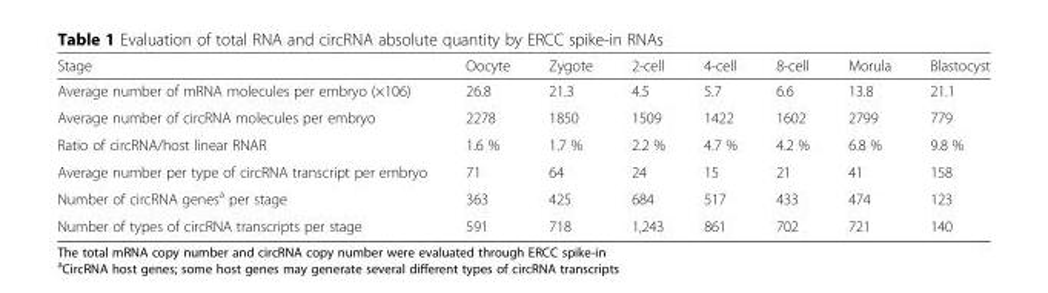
<table><thead><tr><td>Stage</td><td>Oocyte</td><td>Zygote</td><td>2-cell</td><td>4-cell</td><td>8-cell</td><td>Morula</td><td>Blastocyst</td></tr></thead><tbody><tr><td>Average number of mRNA molecules per embryo (×106)</td><td>26.8</td><td>21.3</td><td>4.5</td><td>5.7</td><td>6.6</td><td>13.8</td><td>21.1</td></tr><tr><td>Average number of circRNA molecules per embryo</td><td>2278</td><td>1850</td><td>1509</td><td>1422</td><td>1602</td><td>2799</td><td>779</td></tr><tr><td>Ratio of circRNA/host linear RNAR</td><td>1.6 %</td><td>1.7 %</td><td>2.2 %</td><td>4.7 %</td><td>4.2 %</td><td>6.8 %</td><td>9.8 %</td></tr><tr><td>Average number per type of circRNA transcript per embryo</td><td>71</td><td>64</td><td>24</td><td>15</td><td>21</td><td>41</td><td>158</td></tr><tr><td>Number of circRNA genes<sup>a</sup> per stage</td><td>363</td><td>425</td><td>684</td><td>517</td><td>433</td><td>474</td><td>123</td></tr><tr><td>Number of types of circRNA transcripts per stage</td><td>591</td><td>718</td><td>1,243</td><td>861</td><td>702</td><td>721</td><td>140</td></tr></tbody></table>